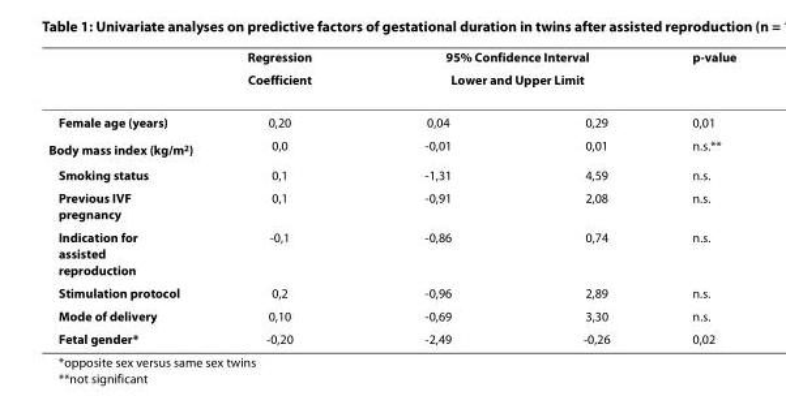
<table><thead><tr><td rowspan="3">Female age (years)</td><td rowspan="3">Regression Coefficient 0,20</td><td rowspan="2" colspan="2">95% Confidence Interval Lower and Upper Limit</td><td rowspan="3">p-value 0,01</td></tr><tr></tr><tr><td>0,04</td><td>0,29</td></tr></thead><tbody><tr><td>Body mass index (kg/m<sup>2</sup>)</td><td>0,0</td><td>-0,01</td><td>0,01</td><td>n.s.**</td></tr><tr><td>Smoking status</td><td>0,1</td><td>-1,31</td><td>4,59</td><td>n.s.</td></tr><tr><td>Previous IVF pregnancy</td><td>0,1</td><td>-0,91</td><td>2,08</td><td>n.s.</td></tr><tr><td>Indication for assisted reproduction</td><td>-0,1</td><td>-0,86</td><td>0,74</td><td>n.s.</td></tr><tr><td>Stimulation protocol</td><td>0,2</td><td>-0,96</td><td>2,89</td><td>n.s.</td></tr><tr><td>Mode of delivery</td><td>0,10</td><td>-0,69</td><td>3,30</td><td>n.s.</td></tr><tr><td>Fetal gender*</td><td>-0,20</td><td>-2,49</td><td>-0,26</td><td>0,02</td></tr></tbody></table>